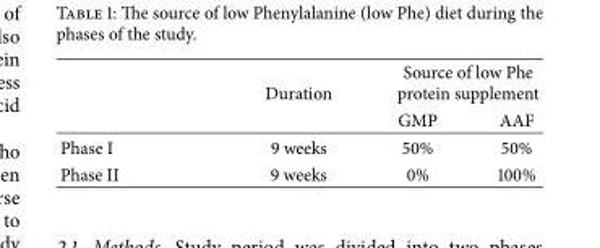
<table><thead><tr><td rowspan="2"></td><td rowspan="2">Duration</td><td colspan="2">Source of low Phe protein supplement</td></tr><tr><td>GMP</td><td>AAF</td></tr></thead><tbody><tr><td>Phase I</td><td>9 weeks</td><td>50%</td><td>50%</td></tr><tr><td>Phase II</td><td>9 weeks</td><td>0%</td><td>100%</td></tr></tbody></table>